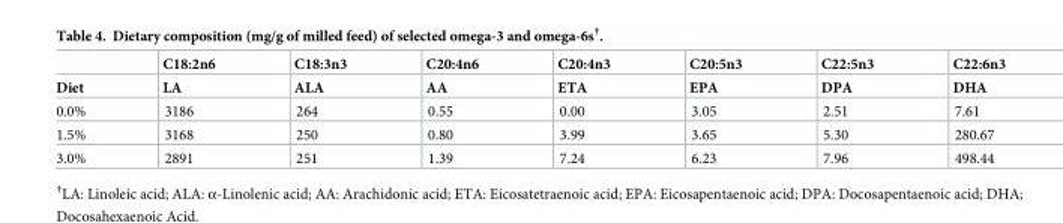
<table><thead><tr><td rowspan="2">Diet</td><td rowspan="2">C18:2n6 LA</td><td rowspan="2">C18:3n3 ALA</td><td rowspan="2">C20:4n6 AA</td><td rowspan="2">C20:4n3 ETA</td><td rowspan="2">C20:5n3 EPA</td><td rowspan="2">C22:5n3 DPA</td><td rowspan="2">C22:6n3 DHA</td></tr><tr></tr></thead><tbody><tr><td>0.0%</td><td>3186</td><td>264</td><td>0.55</td><td>0.00</td><td>3.05</td><td>2.51</td><td>7.61</td></tr><tr><td>1.5%</td><td>3168</td><td>250</td><td>0.80</td><td>3.99</td><td>3.65</td><td>5.30</td><td>280.67</td></tr><tr><td>3.0%</td><td>2891</td><td>251</td><td>1.39</td><td>7.24</td><td>6.23</td><td>7.96</td><td>498.44</td></tr></tbody></table>